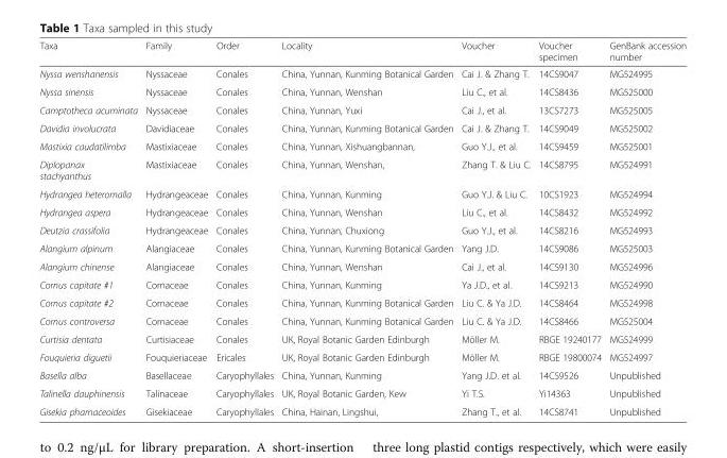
<table><thead><tr><td>Taxa</td><td>Family</td><td>Order</td><td>Locality</td><td>Voucher</td><td>Voucher specimen</td><td>GenBank accession number</td></tr></thead><tbody><tr><td>Nyssa wenshanensis</td><td>Nyssaceae</td><td>Conales</td><td>China, Yunnan, Kunming Botanical Garden</td><td>Cai J. &amp; Zhang T.</td><td>14CS9047</td><td>MG524995</td></tr><tr><td>Nyssa sinensis</td><td>Nyssaceae</td><td>Conales</td><td>China, Yunnan, Wenshan</td><td>Liu C., et al.</td><td>14CS8436</td><td>MG525000</td></tr><tr><td>Camptotheca acuminata</td><td>Nyssaceae</td><td>Conales</td><td>China, Yunnan, Yuxi</td><td>Cai J., et al.</td><td>13CS7273</td><td>MG525005</td></tr><tr><td>Davidia involucrata</td><td>Davidiaceae</td><td>Conales</td><td>China, Yunnan, Kunming Botanical Garden</td><td>Cai J. &amp; Zhang T.</td><td>14CS9049</td><td>MG525002</td></tr><tr><td>Mastixia caudatilimba</td><td>Mastixiaceae</td><td>Conales</td><td>China, Yunnan, Xishuangbannan,</td><td>Guo Y.J., et al.</td><td>14CS9459</td><td>MG525001</td></tr><tr><td>Diplopanax stachyanthus</td><td>Mastixiaceae</td><td>Conales</td><td>China, Yunnan, Wenshan,</td><td>Zhang T. &amp; Liu C.</td><td>14CS8795</td><td>MG524991</td></tr><tr><td>Hydrangea heteromalla</td><td>Hydrangeaceae</td><td>Conales</td><td>China, Yunnan, Kunming</td><td>Guo Y.J. &amp; Liu C.</td><td>10CS1923</td><td>MG524994</td></tr><tr><td>Hydrangea aspera</td><td>Hydrangeaceae</td><td>Conales</td><td>China, Yunnan, Wenshan</td><td>Liu C., et al.</td><td>14CS8432</td><td>MG524992</td></tr><tr><td>Deutzia crassifolia</td><td>Hydrangeaceae</td><td>Conales</td><td>China, Yunnan, Chuxiong</td><td>Guo Y.J., et al.</td><td>14CS8216</td><td>MG524993</td></tr><tr><td>Alangium alpinum</td><td>Alangiaceae</td><td>Conales</td><td>China, Yunnan, Kunming Botanical Garden</td><td>Yang J.D.</td><td>14CS9086</td><td>MG525003</td></tr><tr><td>Alangium chinense</td><td>Alangiaceae</td><td>Conales</td><td>China, Yunnan, Wenshan</td><td>Cai J., et al.</td><td>14CS9130</td><td>MG524996</td></tr><tr><td>Cornus capitate #1</td><td>Cornaceae</td><td>Conales</td><td>China, Yunnan, Kunming</td><td>Ya J.D., et al.</td><td>14CS9213</td><td>MG524990</td></tr><tr><td>Cornus capitate #2</td><td>Cornaceae</td><td>Conales</td><td>China, Yunnan, Kunming Botanical Garden</td><td>Liu C. &amp; Ya J.D.</td><td>14CS8464</td><td>MG524998</td></tr><tr><td>Cornus controversa</td><td>Cornaceae</td><td>Conales</td><td>China, Yunnan, Kunming Botanical Garden</td><td>Liu C. &amp; Ya J.D.</td><td>14CS8466</td><td>MG525004</td></tr><tr><td>Curtisia dentata</td><td>Curtisiaceae</td><td>Conales</td><td>UK, Royal Botanic Garden Edinburgh</td><td>Möller M.</td><td>RBGE 19240177</td><td>MG524999</td></tr><tr><td>Fouquieria diguetii</td><td>Fouquieriaceae</td><td>Ericales</td><td>UK, Royal Botanic Garden Edinburgh</td><td>Möller M.</td><td>RBGE 19800074</td><td>MG524997</td></tr><tr><td>Basella alba</td><td>Basellaceae</td><td>Caryophyllales</td><td>China, Yunnan, Kunming</td><td>Yang J.D. et al.</td><td>14CS9526</td><td>Unpublished</td></tr><tr><td>Talinella dauphinensis</td><td>Talinaceae</td><td>Caryophyllales</td><td>UK, Royal Botanic Garden, Kew</td><td>Yi T.S.</td><td>Yi14363</td><td>Unpublished</td></tr><tr><td>Gisekia pharnaceoides</td><td>Gisekiaceae</td><td>Caryophyllales</td><td>China, Hainan, Lingshui,</td><td>Zhang T., et al.</td><td>14CS8741</td><td>Unpublished</td></tr></tbody></table>